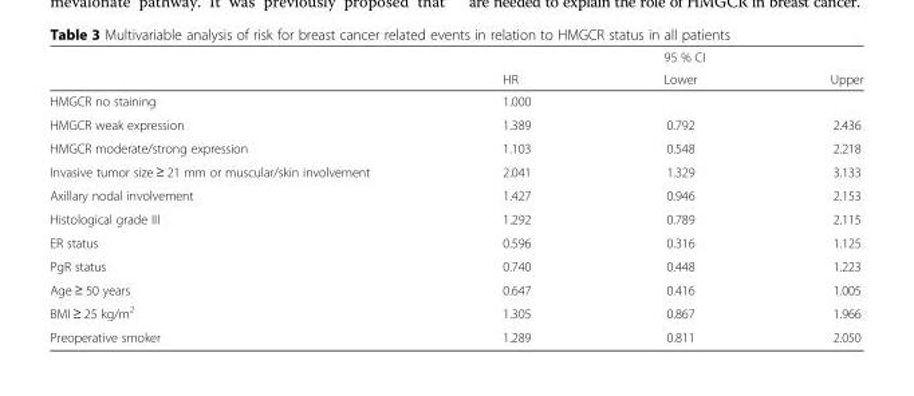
<table><thead><tr><td rowspan="2"></td><td rowspan="2">HR</td><td colspan="2">95 % CI</td></tr><tr><td>Lower</td><td>Upper</td></tr></thead><tbody><tr><td>HMGCR no staining</td><td>1.000</td><td></td><td></td></tr><tr><td>HMGCR weak expression</td><td>1.389</td><td>0.792</td><td>2.436</td></tr><tr><td>HMGCR moderate/strong expression</td><td>1.103</td><td>0.548</td><td>2.218</td></tr><tr><td>Invasive tumor size ≥ 21 mm or muscular/skin involvement</td><td>2.041</td><td>1.329</td><td>3.133</td></tr><tr><td>Axillary nodal involvement</td><td>1.427</td><td>0.946</td><td>2.153</td></tr><tr><td>Histological grade III</td><td>1.292</td><td>0.789</td><td>2.115</td></tr><tr><td>ER status</td><td>0.596</td><td>0.316</td><td>1.125</td></tr><tr><td>PgR status</td><td>0.740</td><td>0.448</td><td>1.223</td></tr><tr><td>Age ≥ 50 years</td><td>0.647</td><td>0.416</td><td>1.005</td></tr><tr><td>BMI ≥ 25 kg/m<sup>2</sup></td><td>1.305</td><td>0.867</td><td>1.966</td></tr><tr><td>Preoperative smoker</td><td>1.289</td><td>0.811</td><td>2.050</td></tr></tbody></table>